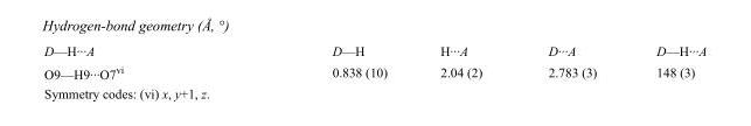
<table><tbody><tr><td>D—H···A</td><td>D—H</td><td>H···A</td><td>D···A</td><td>D—H···A</td></tr><tr><td>O9—H9···O7<sup>vi</sup></td><td>0.838 (10)</td><td>2.04 (2)</td><td>2.783 (3)</td><td>148 (3)</td></tr></tbody></table>